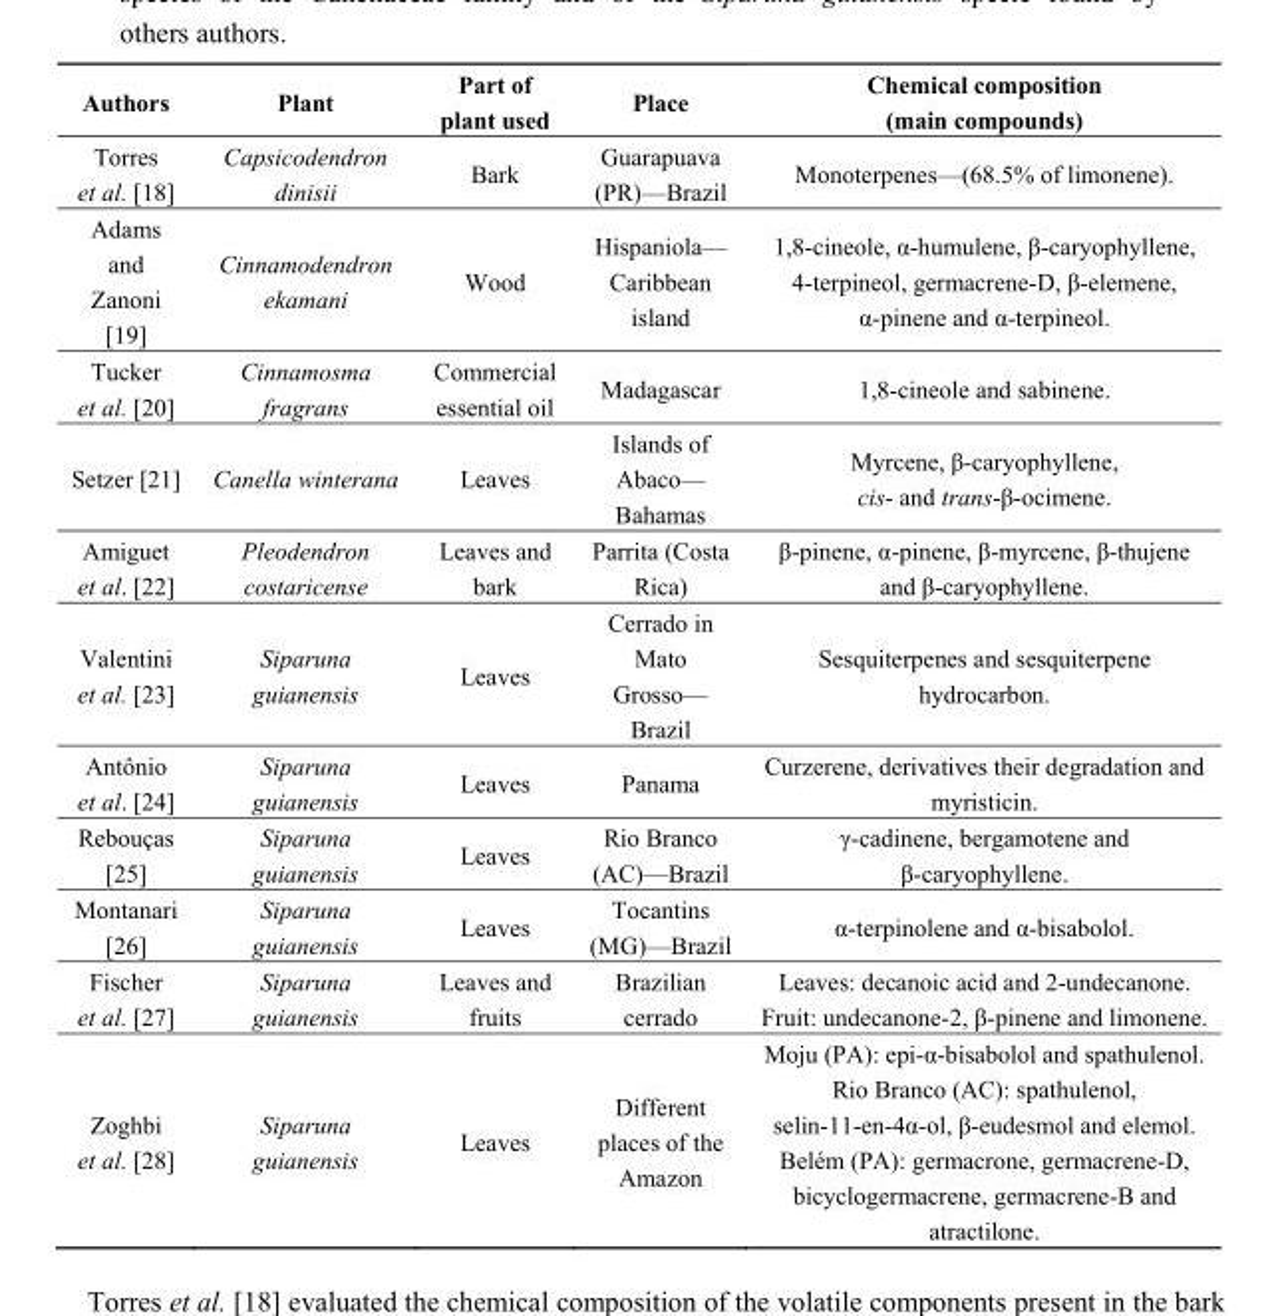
<table><thead><tr><td>Authors</td><td>Plant</td><td>Part of plant used</td><td>Place</td><td>Chemical composition (main compounds)</td></tr></thead><tbody><tr><td>Torres et al. [18]</td><td>Capsicodendron dinisii</td><td>Bark</td><td>Guarapuava (PR)—Brazil</td><td>Monoterpenes—(68.5% of limonene).</td></tr><tr><td>Adams and Zanoni [19]</td><td>Cinnamodendron ekamani</td><td>Wood</td><td>Hispaniola— Caribbean island</td><td>1,8-cineole, α-humulene, β-caryophyllene, 4-terpineol, germacrene-D, β-elemene, α-pinene and α-terpineol.</td></tr><tr><td>Tucker et al. [20]</td><td>Cinnamosma fragrans</td><td>Commercial essential oil</td><td>Madagascar</td><td>1,8-cineole and sabinene.</td></tr><tr><td>Setzer [21]</td><td>Canella winterana</td><td>Leaves</td><td>Islands of Abaco— Bahamas</td><td>Myrcene, β-caryophyllene, cis- and trans-β-ocimene.</td></tr><tr><td>Amiguet et al. [22]</td><td>Pleodendron costaricense</td><td>Leaves and bark</td><td>Parrita (Costa Rica)</td><td>β-pinene, α-pinene, β-myrcene, β-thujene and β-caryophyllene.</td></tr><tr><td>Valentini et al. [23]</td><td>Siparuna guianensis</td><td>Leaves</td><td>Cerrado in Mato Grosso— Brazil</td><td>Sesquiterpenes and sesquiterpene hydrocarbon.</td></tr><tr><td>Antônio et al. [24]</td><td>Siparuna guianensis</td><td>Leaves</td><td>Panama</td><td>Curzerene, derivatives their degradation and myristicin.</td></tr><tr><td>Rebouças [25]</td><td>Siparuna guianensis</td><td>Leaves</td><td>Rio Branco (AC)—Brazil</td><td>γ-cadinene, bergamotene and β-caryophyllene.</td></tr><tr><td>Montanari [26]</td><td>Siparuna guianensis</td><td>Leaves</td><td>Tocantins (MG)—Brazil</td><td>α-terpinolene and α-bisabolol.</td></tr><tr><td>Fischer et al. [27]</td><td>Siparuna guianensis</td><td>Leaves and fruits</td><td>Brazilian cerrado</td><td>Leaves: decanoic acid and 2-undecanone. Fruit: undecanone-2, β-pinene and limonene.</td></tr><tr><td>Zoghbi et al. [28]</td><td>Siparuna guianensis</td><td>Leaves</td><td>Different places of the Amazon</td><td>Moju (PA): epi-α-bisabolol and spathulenol. Rio Branco (AC): spathulenol, selin-11-en-4α-ol, β-eudesmol and elemol. Belém (PA): germacrone, germacrene-D, bicyclogermacrene, germacrene-B and atractilone.</td></tr></tbody></table>